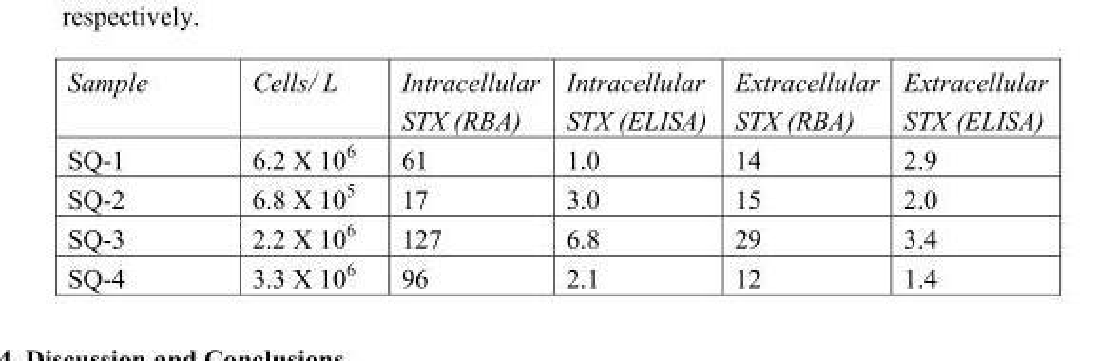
<table><thead><tr><td>Sample</td><td>Cells/ L</td><td>Intracellular STX (RBA)</td><td>Intracellular STX (ELISA)</td><td>Extracellular STX (RBA)</td><td>Extracellular STX (ELISA)</td></tr></thead><tbody><tr><td>SQ-1</td><td>6.2 X 10<sup>6</sup></td><td>61</td><td>1.0</td><td>14</td><td>2.9</td></tr><tr><td>SQ-2</td><td>6.8 X 10<sup>5</sup></td><td>17</td><td>3.0</td><td>15</td><td>2.0</td></tr><tr><td>SQ-3</td><td>2.2 X 10<sup>6</sup></td><td>127</td><td>6.8</td><td>29</td><td>3.4</td></tr><tr><td>SQ-4</td><td>3.3 X 10<sup>6</sup></td><td>96</td><td>2.1</td><td>12</td><td>1.4</td></tr></tbody></table>